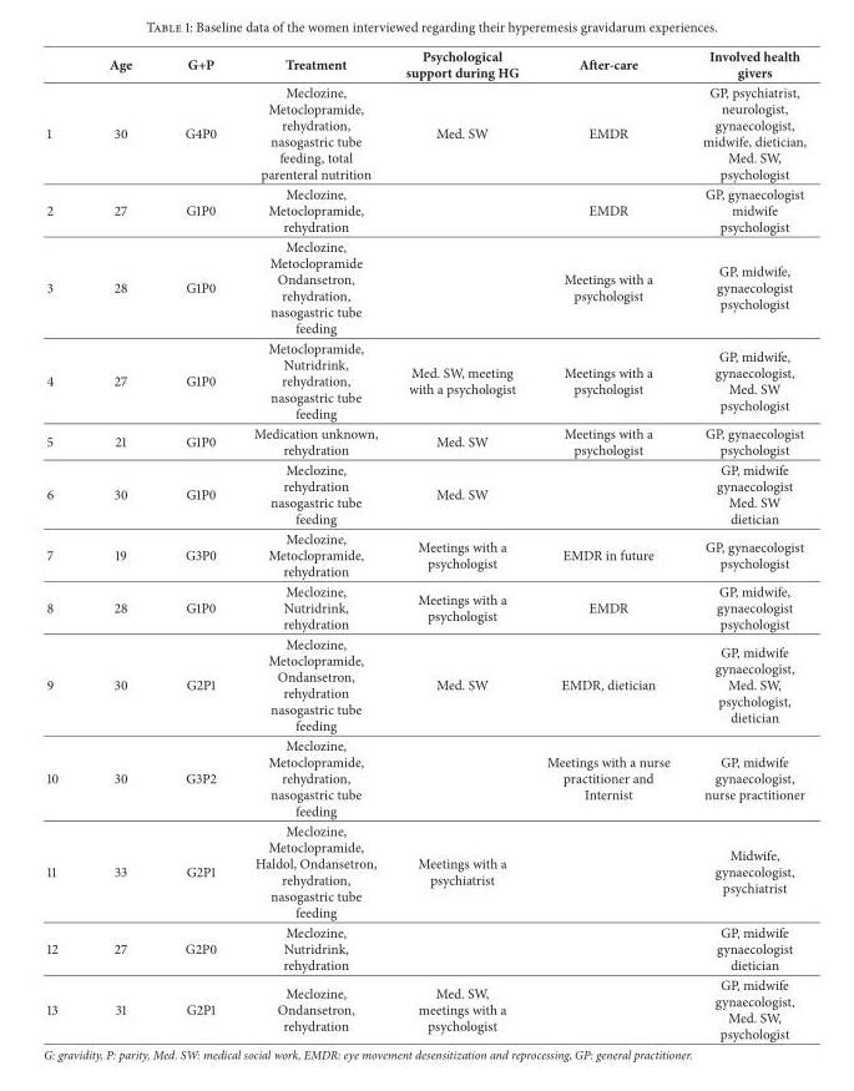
<table><thead><tr><td></td><td>Age</td><td>G+P</td><td>Treatment</td><td>Psychological support during HG</td><td>After-care</td><td>Involved health givers</td></tr></thead><tbody><tr><td>1</td><td>30</td><td>G4P0</td><td>Meclozine, Metoclopramide, rehydration, nasogastric tube feeding, total parenteral nutrition</td><td>Med. SW</td><td>EMDR</td><td>GP, psychiatrist, neurologist, gynaecologist, midwife, dietician, Med. SW, psychologist</td></tr><tr><td>2</td><td>27</td><td>G1P0</td><td>Meclozine, Metoclopramide, rehydration</td><td></td><td>EMDR</td><td>GP, gynaecologist midwife psychologist</td></tr><tr><td>3</td><td>28</td><td>G1P0</td><td>Meclozine, Metoclopramide Ondansetron, rehydration, nasogastric tube feeding</td><td></td><td>Meetings with a psychologist</td><td>GP, midwife, gynaecologist psychologist</td></tr><tr><td>4</td><td>27</td><td>G1P0</td><td>Metoclopramide, Nutridrink, rehydration, nasogastric tube feeding</td><td>Med. SW, meeting with a psychologist</td><td>Meetings with a psychologist</td><td>GP, midwife, gynaecologist, Med. SW psychologist</td></tr><tr><td>5</td><td>21</td><td>G1P0</td><td>Medication unknown, rehydration</td><td>Med. SW</td><td>Meetings with a psychologist</td><td>GP, gynaecologist psychologist</td></tr><tr><td>6</td><td>30</td><td>G1P0</td><td>Meclozine, rehydration nasogastric tube feeding</td><td>Med. SW</td><td></td><td>GP, midwife gynaecologist Med. SW dietician</td></tr><tr><td>7</td><td>19</td><td>G3P0</td><td>Meclozine, Metoclopramide, rehydration</td><td>Meetings with a psychologist</td><td>EMDR in future</td><td>GP, gynaecologist psychologist</td></tr><tr><td>8</td><td>28</td><td>G1P0</td><td>Meclozine, Nutridrink, rehydration</td><td>Meetings with a psychologist</td><td>EMDR</td><td>GP, midwife, gynaecologist psychologist</td></tr><tr><td>9</td><td>30</td><td>G2P1</td><td>Meclozine, Metoclopramide, Ondansetron, rehydration nasogastric tube feeding</td><td>Med. SW</td><td>EMDR, dietician</td><td>GP, midwife gynaecologist, Med. SW, psychologist, dietician</td></tr><tr><td>10</td><td>30</td><td>G3P2</td><td>Meclozine, Metoclopramide, rehydration, nasogastric tube feeding</td><td></td><td>Meetings with a nurse practitioner and Internist</td><td>GP, midwife gynaecologist, nurse practitioner</td></tr><tr><td>11</td><td>33</td><td>G2P1</td><td>Meclozine, Metoclopramide, Haldol, Ondansetron, rehydration, nasogastric tube feeding</td><td>Meetings with a psychiatrist</td><td></td><td>Midwife, gynaecologist, psychiatrist</td></tr><tr><td>12</td><td>27</td><td>G2P0</td><td>Meclozine, Nutridrink, rehydration</td><td></td><td></td><td>GP, midwife gynaecologist dietician</td></tr><tr><td>13</td><td>31</td><td>G2P1</td><td>Meclozine, Ondansetron, rehydration</td><td>Med. SW, meetings with a psychologist</td><td></td><td>GP, midwife gynaecologist, Med. SW, psychologist</td></tr></tbody></table>